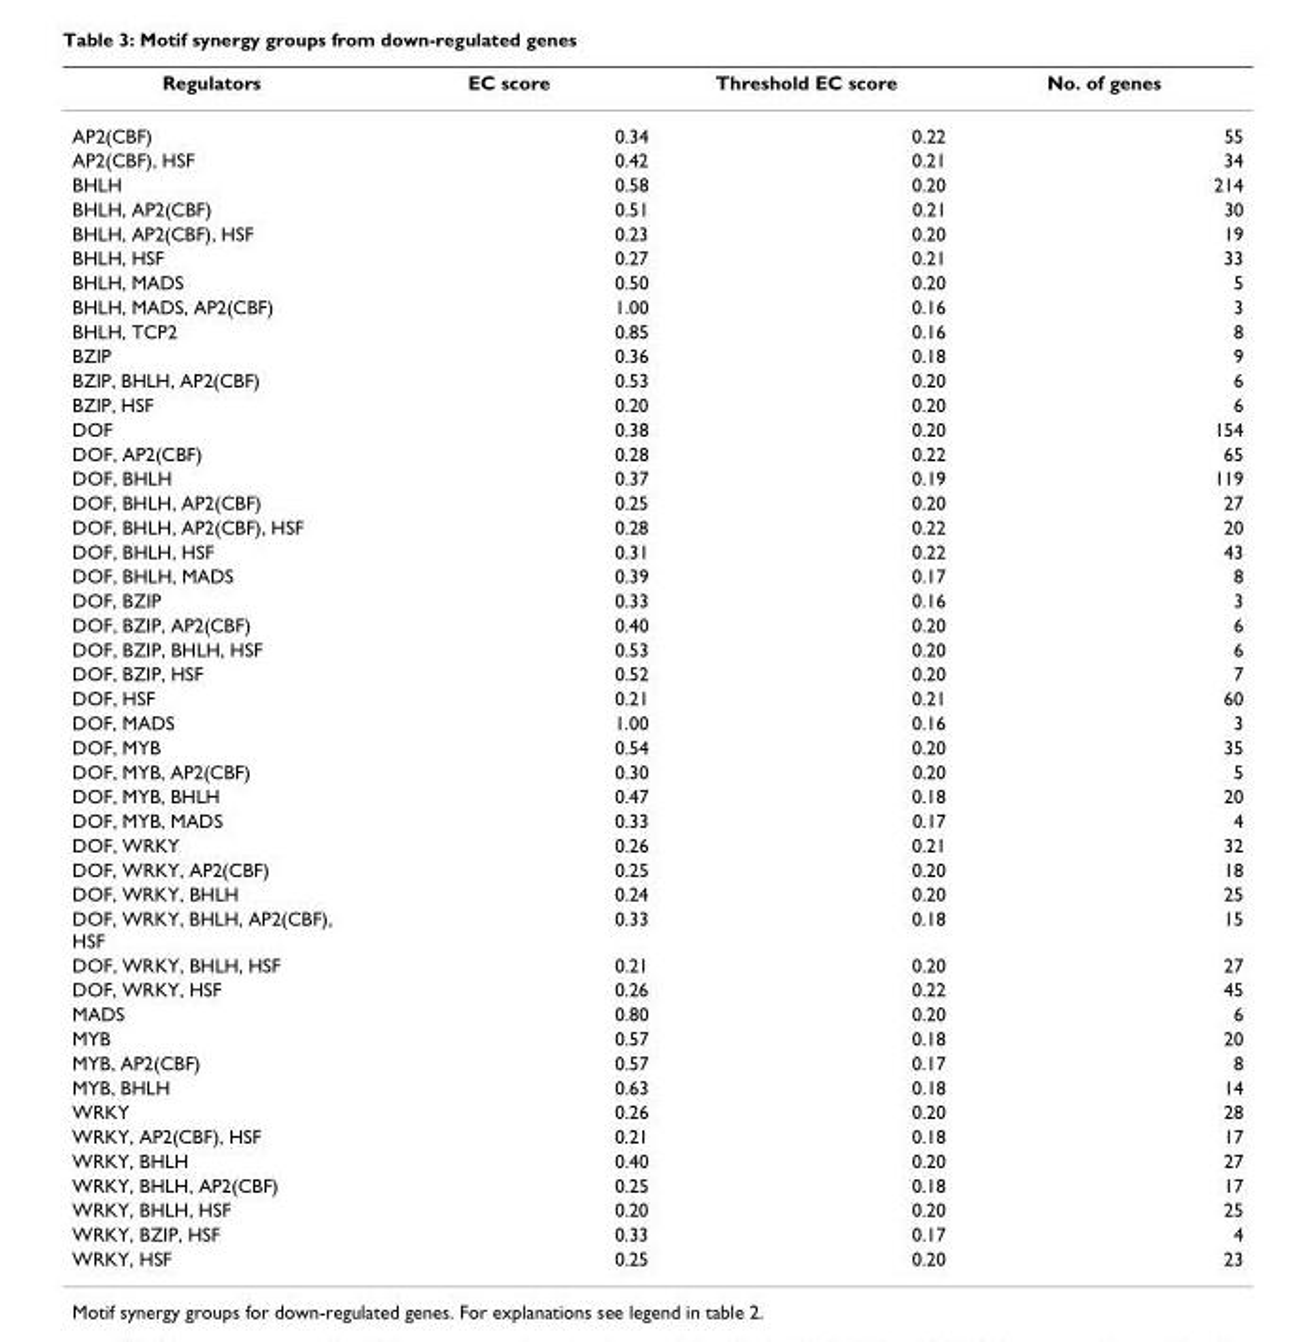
<table><thead><tr><td>Regulators</td><td>EC score</td><td>Threshold EC score</td><td>No. of genes</td></tr></thead><tbody><tr><td>AP2(CBF)</td><td>0.34</td><td>0.22</td><td>55</td></tr><tr><td>AP2(CBF), HSF</td><td>0.42</td><td>0.21</td><td>34</td></tr><tr><td>BHLH</td><td>0.58</td><td>0.20</td><td>214</td></tr><tr><td>BHLH, AP2(CBF)</td><td>0.51</td><td>0.21</td><td>30</td></tr><tr><td>BHLH, AP2(CBF), HSF</td><td>0.23</td><td>0.20</td><td>19</td></tr><tr><td>BHLH, HSF</td><td>0.27</td><td>0.21</td><td>33</td></tr><tr><td>BHLH, MADS</td><td>0.50</td><td>0.20</td><td>5</td></tr><tr><td>BHLH, MADS, AP2(CBF)</td><td>1.00</td><td>0.16</td><td>3</td></tr><tr><td>BHLH, TCP2</td><td>0.85</td><td>0.16</td><td>8</td></tr><tr><td>BZIP</td><td>0.36</td><td>0.18</td><td>9</td></tr><tr><td>BZIP, BHLH, AP2(CBF)</td><td>0.53</td><td>0.20</td><td>6</td></tr><tr><td>BZIP, HSF</td><td>0.20</td><td>0.20</td><td>6</td></tr><tr><td>DOF</td><td>0.38</td><td>0.20</td><td>154</td></tr><tr><td>DOF, AP2(CBF)</td><td>0.28</td><td>0.22</td><td>65</td></tr><tr><td>DOF, BHLH</td><td>0.37</td><td>0.19</td><td>119</td></tr><tr><td>DOF, BHLH, AP2(CBF)</td><td>0.25</td><td>0.20</td><td>27</td></tr><tr><td>DOF, BHLH, AP2(CBF), HSF</td><td>0.28</td><td>0.22</td><td>20</td></tr><tr><td>DOF, BHLH, HSF</td><td>0.31</td><td>0.22</td><td>43</td></tr><tr><td>DOF, BHLH, MADS</td><td>0.39</td><td>0.17</td><td>8</td></tr><tr><td>DOF, BZIP</td><td>0.33</td><td>0.16</td><td>3</td></tr><tr><td>DOF, BZIP, AP2(CBF)</td><td>0.40</td><td>0.20</td><td>6</td></tr><tr><td>DOF, BZIP, BHLH, HSF</td><td>0.53</td><td>0.20</td><td>6</td></tr><tr><td>DOF, BZIP, HSF</td><td>0.52</td><td>0.20</td><td>7</td></tr><tr><td>DOF, HSF</td><td>0.21</td><td>0.21</td><td>60</td></tr><tr><td>DOF, MADS</td><td>1.00</td><td>0.16</td><td>3</td></tr><tr><td>DOF, MYB</td><td>0.54</td><td>0.20</td><td>35</td></tr><tr><td>DOF, MYB, AP2(CBF)</td><td>0.30</td><td>0.20</td><td>5</td></tr><tr><td>DOF, MYB, BHLH</td><td>0.47</td><td>0.18</td><td>20</td></tr><tr><td>DOF, MYB, MADS</td><td>0.33</td><td>0.17</td><td>4</td></tr><tr><td>DOF, WRKY</td><td>0.26</td><td>0.21</td><td>32</td></tr><tr><td>DOF, WRKY, AP2(CBF)</td><td>0.25</td><td>0.20</td><td>18</td></tr><tr><td>DOF, WRKY, BHLH</td><td>0.24</td><td>0.20</td><td>25</td></tr><tr><td>DOF, WRKY, BHLH, AP2(CBF), HSF</td><td>0.33</td><td>0.18</td><td>15</td></tr><tr><td>DOF, WRKY, BHLH, HSF</td><td>0.21</td><td>0.20</td><td>27</td></tr><tr><td>DOF, WRKY, HSF</td><td>0.26</td><td>0.22</td><td>45</td></tr><tr><td>MADS</td><td>0.80</td><td>0.20</td><td>6</td></tr><tr><td>MYB</td><td>0.57</td><td>0.18</td><td>20</td></tr><tr><td>MYB, AP2(CBF)</td><td>0.57</td><td>0.17</td><td>8</td></tr><tr><td>MYB, BHLH</td><td>0.63</td><td>0.18</td><td>14</td></tr><tr><td>WRKY</td><td>0.26</td><td>0.20</td><td>28</td></tr><tr><td>WRKY, AP2(CBF), HSF</td><td>0.21</td><td>0.18</td><td>17</td></tr><tr><td>WRKY, BHLH</td><td>0.40</td><td>0.20</td><td>27</td></tr><tr><td>WRKY, BHLH, AP2(CBF)</td><td>0.25</td><td>0.18</td><td>17</td></tr><tr><td>WRKY, BHLH, HSF</td><td>0.20</td><td>0.20</td><td>25</td></tr><tr><td>WRKY, BZIP, HSF</td><td>0.33</td><td>0.17</td><td>4</td></tr><tr><td>WRKY, HSF</td><td>0.25</td><td>0.20</td><td>23</td></tr></tbody></table>